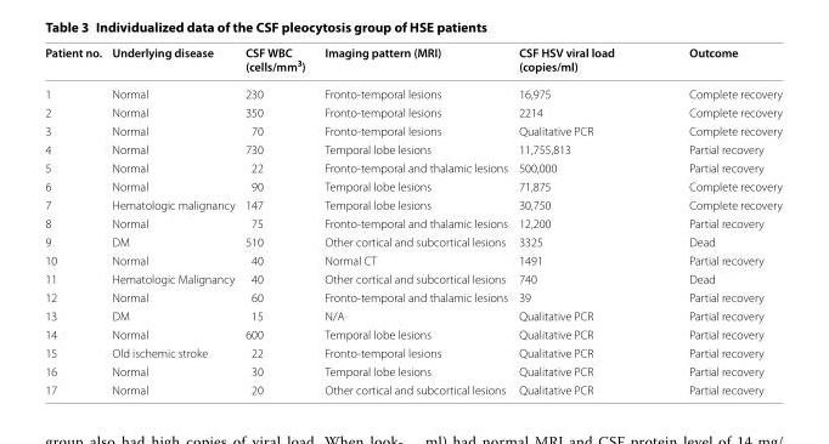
<table><thead><tr><td>Patient no.</td><td>Underlying disease</td><td>CSF WBC (cells/mm<sup>3</sup>)</td><td>Imaging pattern (MRI)</td><td>CSF HSV viral load (copies/ml)</td><td>Outcome</td></tr></thead><tbody><tr><td>1</td><td>Normal</td><td>230</td><td>Fronto-temporal lesions</td><td>16,975</td><td>Complete recovery</td></tr><tr><td>2</td><td>Normal</td><td>350</td><td>Fronto-temporal lesions</td><td>2214</td><td>Complete recovery</td></tr><tr><td>3</td><td>Normal</td><td>70</td><td>Fronto-temporal lesions</td><td>Qualitative PCR</td><td>Complete recovery</td></tr><tr><td>4</td><td>Normal</td><td>730</td><td>Temporal lobe lesions</td><td>11,755,813</td><td>Partial recovery</td></tr><tr><td>5</td><td>Normal</td><td>22</td><td>Fronto-temporal and thalamic lesions</td><td>500,000</td><td>Partial recovery</td></tr><tr><td>6</td><td>Normal</td><td>90</td><td>Temporal lobe lesions</td><td>71,875</td><td>Complete recovery</td></tr><tr><td>7</td><td>Hematologic malignancy</td><td>147</td><td>Temporal lobe lesions</td><td>30,750</td><td>Complete recovery</td></tr><tr><td>8</td><td>Normal</td><td>75</td><td>Fronto-temporal and thalamic lesions</td><td>12,200</td><td>Partial recovery</td></tr><tr><td>9</td><td>DM</td><td>510</td><td>Other cortical and subcortical lesions</td><td>3325</td><td>Dead</td></tr><tr><td>10</td><td>Normal</td><td>40</td><td>Normal CT</td><td>1491</td><td>Partial recovery</td></tr><tr><td>11</td><td>Hematologic Malignancy</td><td>40</td><td>Other cortical and subcortical lesions</td><td>740</td><td>Dead</td></tr><tr><td>12</td><td>Normal</td><td>60</td><td>Fronto-temporal and thalamic lesions</td><td>39</td><td>Partial recovery</td></tr><tr><td>13</td><td>DM</td><td>15</td><td>N/A</td><td>Qualitative PCR</td><td>Partial recovery</td></tr><tr><td>14</td><td>Normal</td><td>600</td><td>Temporal lobe lesions</td><td>Qualitative PCR</td><td>Partial recovery</td></tr><tr><td>15</td><td>Old ischemic stroke</td><td>22</td><td>Fronto-temporal lesions</td><td>Qualitative PCR</td><td>Partial recovery</td></tr><tr><td>16</td><td>Normal</td><td>30</td><td>Temporal lobe lesions</td><td>Qualitative PCR</td><td>Partial recovery</td></tr><tr><td>17</td><td>Normal</td><td>20</td><td>Other cortical and subcortical lesions</td><td>Qualitative PCR</td><td>Partial recovery</td></tr></tbody></table>